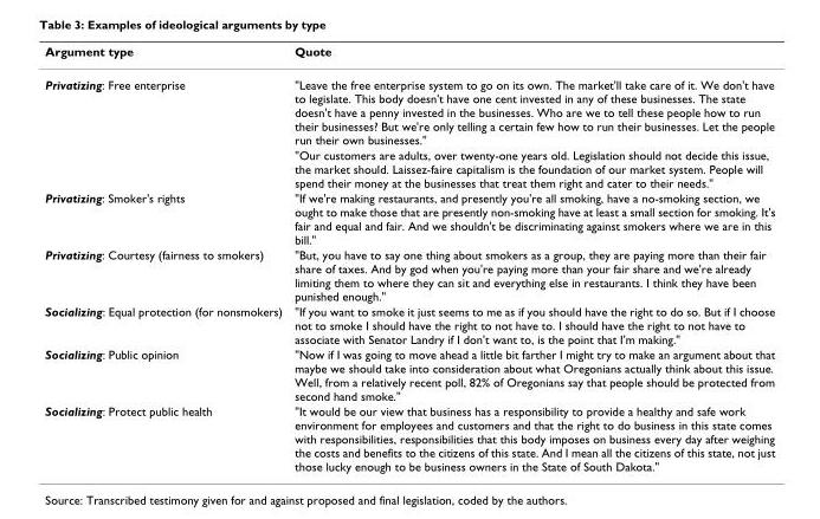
<table><thead><tr><td>Argument type</td><td>Quote</td></tr></thead><tbody><tr><td rowspan="2">Privatizing: Free enterprise</td><td>&quot;Leave the free enterprise system to go on its own. The market&#x27;ll take care of it. We don&#x27;t have to legislate. This body doesn&#x27;t have one cent invested in any of these businesses. The state doesn&#x27;t have a penny invested in the businesses. Who are we to tell these people how to run their businesses? But we&#x27;re only telling a certain few how to run their businesses. Let the people run their own businesses.&quot;</td></tr><tr><td>&quot;Our customers are adults, over twenty-one years old. Legislation should not decide this issue, the market should. Laissez-faire capitalism is the foundation of our market system. People will spend their money at the businesses that treat them right and cater to their needs.&quot;</td></tr><tr><td>Privatizing: Smoker&#x27;s rights</td><td>&quot;If we&#x27;re making restaurants, and presently you&#x27;re all smoking, have a no-smoking section, we ought to make those that are presently non-smoking have at least a small section for smoking. It&#x27;s fair and equal and fair. And we shouldn&#x27;t be discriminating against smokers where we are in this bill.&quot;</td></tr><tr><td>Privatizing: Courtesy (fairness to smokers)</td><td>&quot;But, you have to say one thing about smokers as a group, they are paying more than their fair share of taxes. And by god when you&#x27;re paying more than your fair share and we&#x27;re already limiting them to where they can sit and everything else in restaurants. I think they have been punished enough.&quot;</td></tr><tr><td>Socializing: Equal protection (for nonsmokers)</td><td>&quot;If you want to smoke it just seems to me as if you should have the right to do so. But if I choose not to smoke I should have the right to not have to. I should have the right to not have to associate with Senator Landry if I don&#x27;t want to, is the point that I&#x27;m making.&quot;</td></tr><tr><td>Socializing: Public opinion</td><td>&quot;Now if I was going to move ahead a little bit farther I might try to make an argument about that maybe we should take into consideration about what Oregonians actually think about this issue. Well, from a relatively recent poll, 82% of Oregonians say that people should be protected from second hand smoke.&quot;</td></tr><tr><td>Socializing: Protect public health</td><td>&quot;It would be our view that business has a responsibility to provide a healthy and safe work environment for employees and customers and that the right to do business in this state comes with responsibilities, responsibilities that this body imposes on business every day after weighing the costs and benefits to the citizens of this state. And I mean all the citizens of this state, not just those lucky enough to be business owners in the State of South Dakota.&quot;</td></tr></tbody></table>